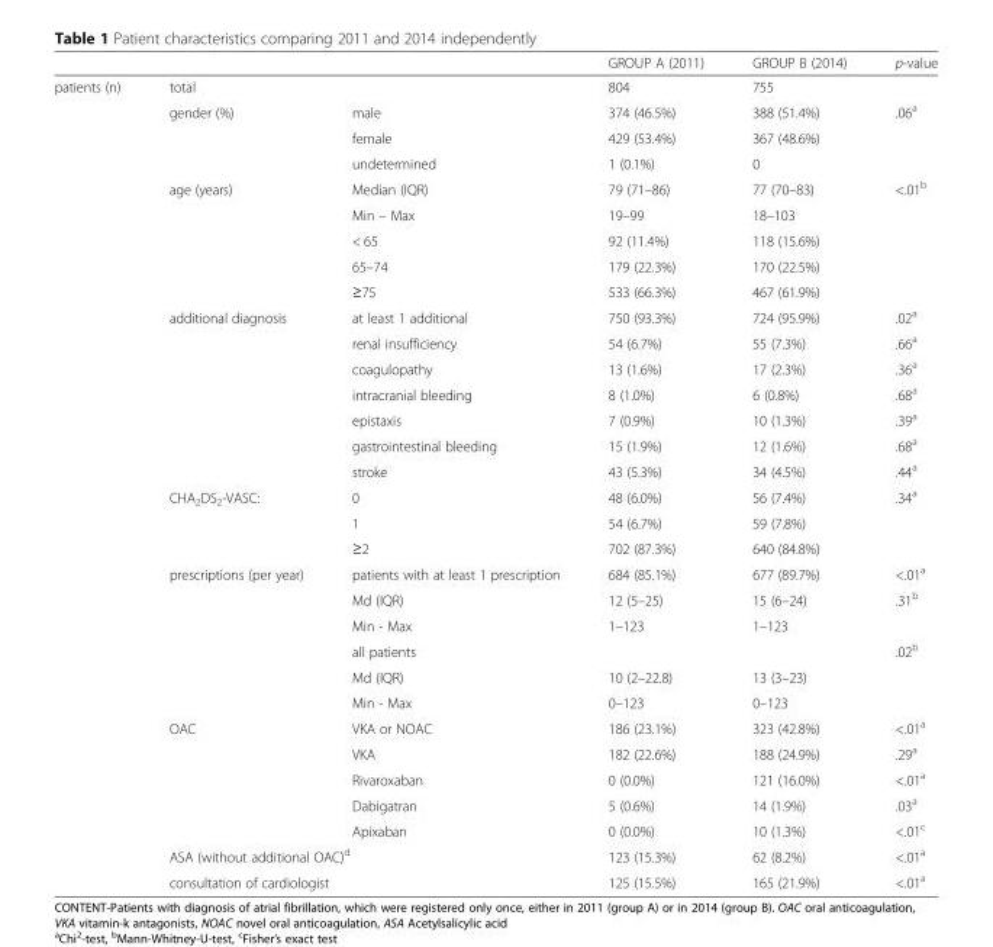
<table><thead><tr><td></td><td></td><td></td><td>GROUP A (2011)</td><td>GROUP B (2014)</td><td>p-value</td></tr></thead><tbody><tr><td rowspan="32">patients (n)</td><td colspan="2">total</td><td>804</td><td>755</td><td></td></tr><tr><td rowspan="3">gender (%)</td><td>male</td><td>374 (46.5%)</td><td>388 (51.4%)</td><td rowspan="2">.06<sup>a</sup></td></tr><tr><td>female</td><td>429 (53.4%)</td><td>367 (48.6%)</td></tr><tr><td>undetermined</td><td>1 (0.1%)</td><td>0</td><td></td></tr><tr><td rowspan="5">age (years)</td><td>Median (IQR)</td><td>79 (71–86)</td><td>77 (70–83)</td><td rowspan="5">&lt;.01<sup>b</sup></td></tr><tr><td>Min – Max</td><td>19–99</td><td>18–103</td></tr><tr><td>&lt; 65</td><td>92 (11.4%)</td><td>118 (15.6%)</td></tr><tr><td>65–74</td><td>179 (22.3%)</td><td>170 (22.5%)</td></tr><tr><td>≥75</td><td>533 (66.3%)</td><td>467 (61.9%)</td></tr><tr><td rowspan="7">additional diagnosis</td><td>at least 1 additional</td><td>750 (93.3%)</td><td>724 (95.9%)</td><td>.02<sup>a</sup></td></tr><tr><td>renal insufficiency</td><td>54 (6.7%)</td><td>55 (7.3%)</td><td>.66<sup>a</sup></td></tr><tr><td>coagulopathy</td><td>13 (1.6%)</td><td>17 (2.3%)</td><td>.36<sup>a</sup></td></tr><tr><td>intracranial bleeding</td><td>8 (1.0%)</td><td>6 (0.8%)</td><td>.68<sup>a</sup></td></tr><tr><td>epistaxis</td><td>7 (0.9%)</td><td>10 (1.3%)</td><td>.39<sup>a</sup></td></tr><tr><td>gastrointestinal bleeding</td><td>15 (1.9%)</td><td>12 (1.6%)</td><td>.68<sup>a</sup></td></tr><tr><td>stroke</td><td>43 (5.3%)</td><td>34 (4.5%)</td><td>.44<sup>a</sup></td></tr><tr><td rowspan="3">CHA<sub>2</sub>DS<sub>2</sub>-VASC:</td><td>0</td><td>48 (6.0%)</td><td>56 (7.4%)</td><td rowspan="3">.34<sup>a</sup></td></tr><tr><td>1</td><td>54 (6.7%)</td><td>59 (7.8%)</td></tr><tr><td>≥2</td><td>702 (87.3%)</td><td>640 (84.8%)</td></tr><tr><td rowspan="6">prescriptions (per year)</td><td>patients with at least 1 prescription</td><td>684 (85.1%)</td><td>677 (89.7%)</td><td>&lt;.01<sup>a</sup></td></tr><tr><td>Md (IQR)</td><td>12 (5–25)</td><td>15 (6–24)</td><td rowspan="2">.31<sup>b</sup></td></tr><tr><td>Min - Max</td><td>1–123</td><td>1–123</td></tr><tr><td>all patients</td><td></td><td></td><td rowspan="3">.02<sup>b</sup></td></tr><tr><td>Md (IQR)</td><td>10 (2–22.8)</td><td>13 (3–23)</td></tr><tr><td>Min - Max</td><td>0–123</td><td>0–123</td></tr><tr><td rowspan="5">OAC</td><td>VKA or NOAC</td><td>186 (23.1%)</td><td>323 (42.8%)</td><td>&lt;.01<sup>a</sup></td></tr><tr><td>VKA</td><td>182 (22.6%)</td><td>188 (24.9%)</td><td>.29<sup>a</sup></td></tr><tr><td>Rivaroxaban</td><td>0 (0.0%)</td><td>121 (16.0%)</td><td>&lt;.01<sup>a</sup></td></tr><tr><td>Dabigatran</td><td>5 (0.6%)</td><td>14 (1.9%)</td><td>.03<sup>a</sup></td></tr><tr><td>Apixaban</td><td>0 (0.0%)</td><td>10 (1.3%)</td><td>&lt;.01<sup>c</sup></td></tr><tr><td colspan="2">ASA (without additional OAC)<sup>d</sup></td><td>123 (15.3%)</td><td>62 (8.2%)</td><td>&lt;.01<sup>a</sup></td></tr><tr><td colspan="2">consultation of cardiologist</td><td>125 (15.5%)</td><td>165 (21.9%)</td><td>&lt;.01<sup>a</sup></td></tr></tbody></table>